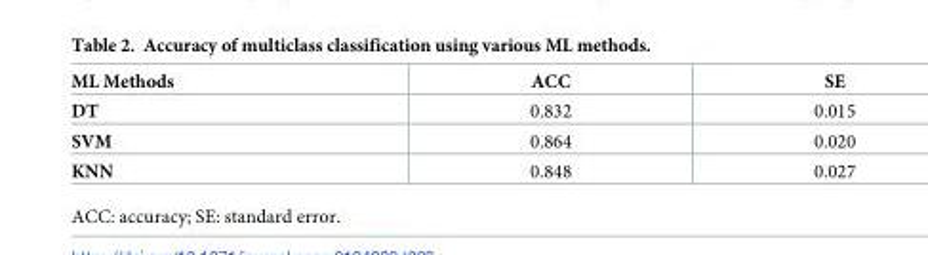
<table><thead><tr><td>ML Methods</td><td>ACC</td><td>SE</td></tr></thead><tbody><tr><td>DT</td><td>0.832</td><td>0.015</td></tr><tr><td>SVM</td><td>0.864</td><td>0.020</td></tr><tr><td>KNN</td><td>0.848</td><td>0.027</td></tr></tbody></table>